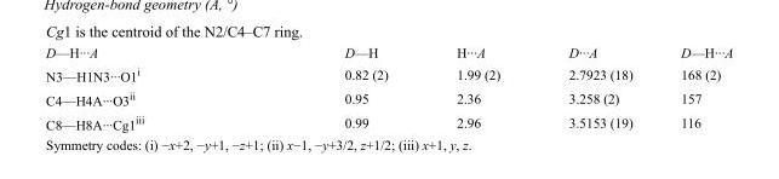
<table><tbody><tr><td>D—H···A</td><td>D—H</td><td>H···A</td><td>D···A</td><td>D—H···A</td></tr><tr><td>N3—H1N3···O1<sup>i</sup></td><td>0.82 (2)</td><td>1.99 (2)</td><td>2.7923 (18)</td><td>168 (2)</td></tr><tr><td>C4—H4A···O3<sup>ii</sup></td><td>0.95</td><td>2.36</td><td>3.258 (2)</td><td>157</td></tr><tr><td>C8—H8A···Cg1<sup>iii</sup></td><td>0.99</td><td>2.96</td><td>3.5153 (19)</td><td>116</td></tr></tbody></table>